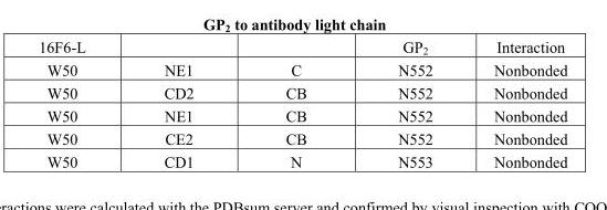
<table><tbody><tr><td>16F6-L</td><td></td><td></td><td>GP<sub>2</sub></td><td>Interaction</td></tr><tr><td>W50</td><td>NE1</td><td>C</td><td>N552</td><td>Nonbonded</td></tr><tr><td>W50</td><td>CD2</td><td>CB</td><td>N552</td><td>Nonbonded</td></tr><tr><td>W50</td><td>NE1</td><td>CB</td><td>N552</td><td>Nonbonded</td></tr><tr><td>W50</td><td>CE2</td><td>CB</td><td>N552</td><td>Nonbonded</td></tr><tr><td>W50</td><td>CD1</td><td>N</td><td>N553</td><td>Nonbonded</td></tr></tbody></table>